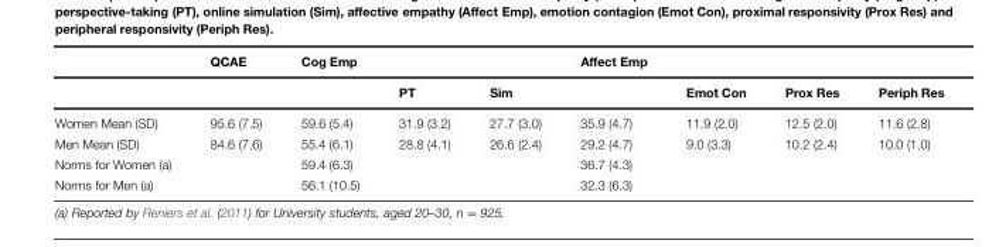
<table><thead><tr><td rowspan="2"></td><td rowspan="2">QCAE</td><td rowspan="2">Cog Emp</td><td rowspan="2">PT</td><td rowspan="2">Sim</td><td rowspan="2">Affect Emp</td><td rowspan="2">Emot Con</td><td rowspan="2">Prox Res</td><td rowspan="2">Periph Res</td></tr><tr></tr></thead><tbody><tr><td>Women Mean (SD)</td><td>95.6 (7.5)</td><td>59.6 (5.4)</td><td>31.9 (3.2)</td><td>27.7 (3.0)</td><td>35.9 (4.7)</td><td>11.9 (2.0)</td><td>12.5 (2.0)</td><td>11.6 (2.8)</td></tr><tr><td>Men Mean (SD)</td><td>84.6 (7.6)</td><td>55.4 (6.1)</td><td>28.8 (4.1)</td><td>26.6 (2.4)</td><td>29.2 (4.7)</td><td>9.0 (3.3)</td><td>10.2 (2.4)</td><td>10.0 (1.0)</td></tr><tr><td>Norms for Women (a)</td><td></td><td>59.4 (6.3)</td><td></td><td></td><td>36.7 (4.3)</td><td></td><td></td><td></td></tr><tr><td>Norms for Men (a)</td><td></td><td>56.1 (10.5)</td><td></td><td></td><td>32.3 (6.3)</td><td></td><td></td><td></td></tr></tbody></table>